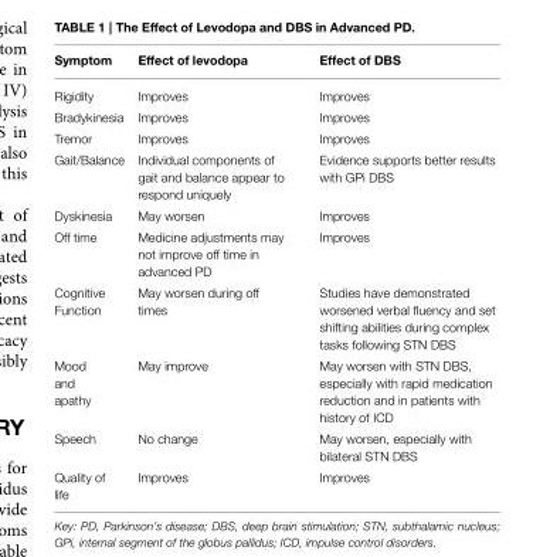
<table><thead><tr><td>Symptom</td><td>Effect of levodopa</td><td>Effect of DBS</td></tr></thead><tbody><tr><td>Rigidity</td><td>Improves</td><td>Improves</td></tr><tr><td>Bradykinesia</td><td>Improves</td><td>Improves</td></tr><tr><td>Tremor</td><td>Improves</td><td>Improves</td></tr><tr><td>Gait/Balance</td><td>Individual components of gait and balance appear to respond uniquely</td><td>Evidence supports better results with GPi DBS</td></tr><tr><td>Dyskinesia</td><td>May worsen</td><td>Improves</td></tr><tr><td>Off time</td><td>Medicine adjustments may not improve off time in advanced PD</td><td>Improves</td></tr><tr><td>Cognitive Function</td><td>May worsen during off times</td><td>Studies have demonstrated worsened verbal fluency and set shifting abilities during complex tasks following STN DBS</td></tr><tr><td>Mood and apathy</td><td>May improve</td><td>May worsen with STN DBS, especially with rapid medication reduction and in patients with history of ICD</td></tr><tr><td>Speech</td><td>No change</td><td>May worsen, especially with bilateral STN DBS</td></tr><tr><td>Quality of life</td><td>Improves</td><td>Improves</td></tr></tbody></table>